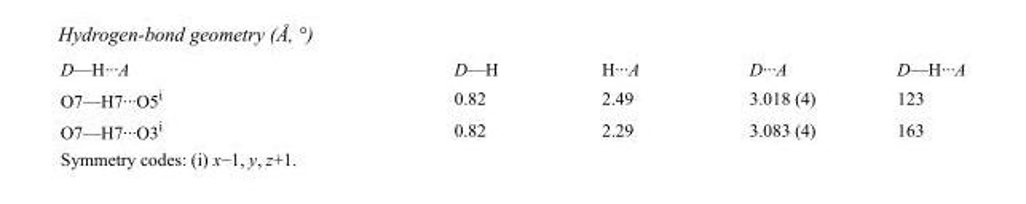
<table><tbody><tr><td>D—H···A</td><td>D—H</td><td>H···A</td><td>D···A</td><td>D—H···A</td></tr><tr><td>O7—H7···O5<sup>i</sup></td><td>0.82</td><td>2.49</td><td>3.018 (4)</td><td>123</td></tr><tr><td>O7—H7···O3<sup>i</sup></td><td>0.82</td><td>2.29</td><td>3.083 (4)</td><td>163</td></tr></tbody></table>